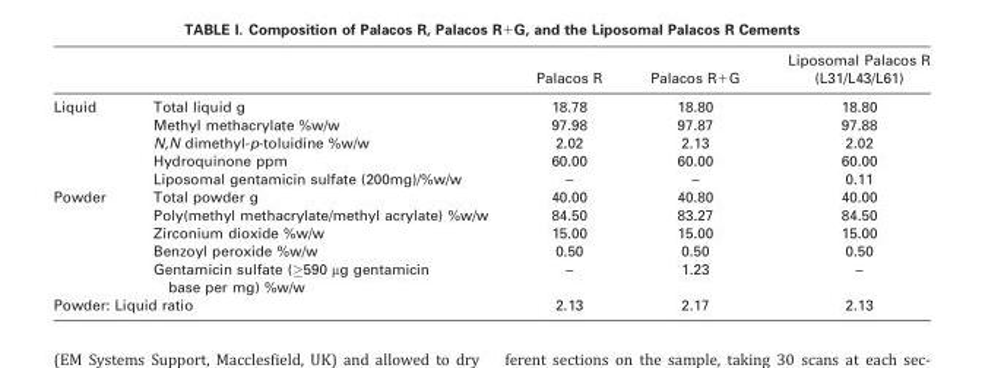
<table><thead><tr><td></td><td></td><td>Palacos R</td><td>Palacos R+G</td><td>Liposomal Palacos R (L31/L43/L61)</td></tr></thead><tbody><tr><td rowspan="5">Liquid</td><td>Total liquid g</td><td>18.78</td><td>18.80</td><td>18.80</td></tr><tr><td>Methyl methacrylate %w/w</td><td>97.98</td><td>97.87</td><td>97.88</td></tr><tr><td>N,N dimethyl-p-toluidine %w/w</td><td>2.02</td><td>2.13</td><td>2.02</td></tr><tr><td>Hydroquinone ppm</td><td>60.00</td><td>60.00</td><td>60.00</td></tr><tr><td>Liposomal gentamicin sulfate (200mg)/%w/w</td><td>–</td><td>–</td><td>0.11</td></tr><tr><td rowspan="5">Powder</td><td>Total powder g</td><td>40.00</td><td>40.80</td><td>40.00</td></tr><tr><td>Poly(methyl methacrylate/methyl acrylate) %w/w</td><td>84.50</td><td>83.27</td><td>84.50</td></tr><tr><td>Zirconium dioxide %w/w</td><td>15.00</td><td>15.00</td><td>15.00</td></tr><tr><td>Benzoyl peroxide %w/w</td><td>0.50</td><td>0.50</td><td>0.50</td></tr><tr><td>Gentamicin sulfate (≥590 µg gentamicin base per mg) %w/w</td><td>–</td><td>1.23</td><td>–</td></tr><tr><td colspan="2">Powder: Liquid ratio</td><td>2.13</td><td>2.17</td><td>2.13</td></tr></tbody></table>